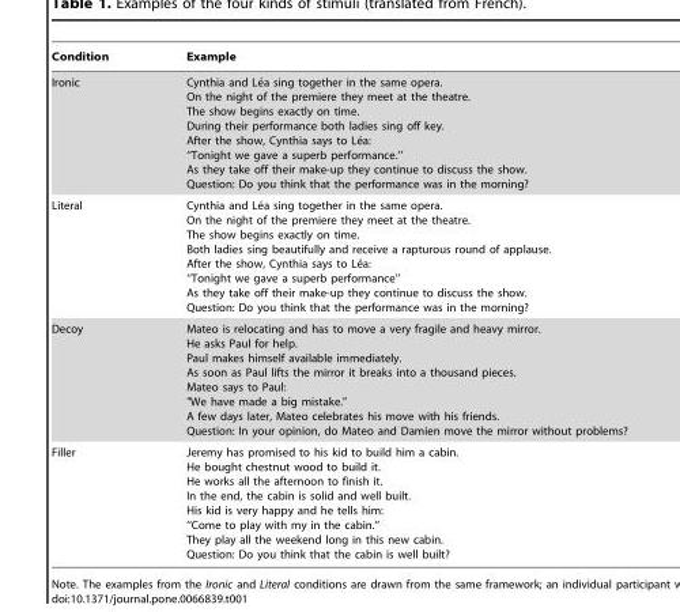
<table><thead><tr><td>Condition</td><td>Example</td></tr></thead><tbody><tr><td>Ironic</td><td>Cynthia and Le´a sing together in the same opera. On the night of the premiere they meet at the theatre. The show begins exactly on time. During their performance both ladies sing off key. After the show, Cynthia says to Le´a: ‘‘Tonight we gave a superb performance.’’ As they take off their make-up they continue to discuss the show. Question: Do you think that the performance was in the morning?</td></tr><tr><td>Literal</td><td>Cynthia and Le´a sing together in the same opera. On the night of the premiere they meet at the theatre. The show begins exactly on time. Both ladies sing beautifully and receive a rapturous round of applause. After the show, Cynthia says to Le´a: ‘‘Tonight we gave a superb performance’’ As they take off their make-up they continue to discuss the show. Question: Do you think that the performance was in the morning?</td></tr><tr><td>Decoy</td><td>Mateo is relocating and has to move a very fragile and heavy mirror. He asks Paul for help. Paul makes himself available immediately. As soon as Paul lifts the mirror it breaks into a thousand pieces. Mateo says to Paul: &quot;We have made a big mistake.&quot; A few days later, Mateo celebrates his move with his friends. Question: In your opinion, do Mateo and Damien move the mirror without problems?</td></tr><tr><td>Filler</td><td>Jeremy has promised to his kid to build him a cabin. He bought chestnut wood to build it. He works all the afternoon to finish it. In the end, the cabin is solid and well built. His kid is very happy and he tells him: ‘‘Come to play with my in the cabin.’’ They play all the weekend long in this new cabin. Question: Do you think that the cabin is well built?</td></tr></tbody></table>